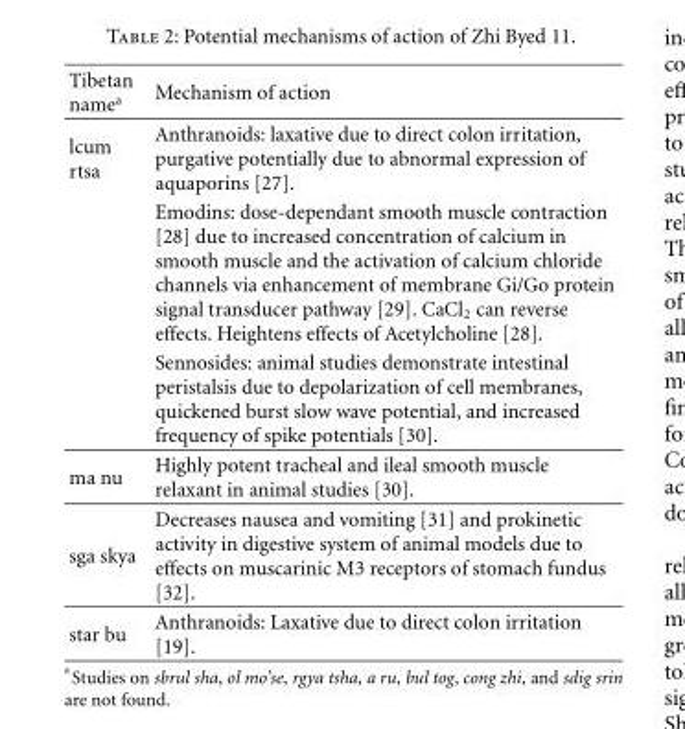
<table><thead><tr><td>Tibetan name<sup>a</sup></td><td>Mechanism of action</td></tr></thead><tbody><tr><td rowspan="3">lcum rtsa</td><td>Anthranoids: laxative due to direct colon irritation, purgative potentially due to abnormal expression of aquaporins [27].</td></tr><tr><td>Emodins: dose-dependant smooth muscle contraction [28] due to increased concentration of calcium in smooth muscle and the activation of calcium chloride channels via enhancement of membrane Gi/Go protein signal transducer pathway [29]. CaCl<sub>2</sub> can reverse effects. Heightens effects of Acetylcholine [28].</td></tr><tr><td>Sennosides: animal studies demonstrate intestinal peristalsis due to depolarization of cell membranes, quickened burst slow wave potential, and increased frequency of spike potentials [30].</td></tr><tr><td>ma nu</td><td>Highly potent tracheal and ileal smooth muscle relaxant in animal studies [30].</td></tr><tr><td>sga skya</td><td>Decreases nausea and vomiting [31] and prokinetic activity in digestive system of animal models due to effects on muscarinic M3 receptors of stomach fundus [32].</td></tr><tr><td>star bu</td><td>Anthranoids: Laxative due to direct colon irritation [19].</td></tr></tbody></table>